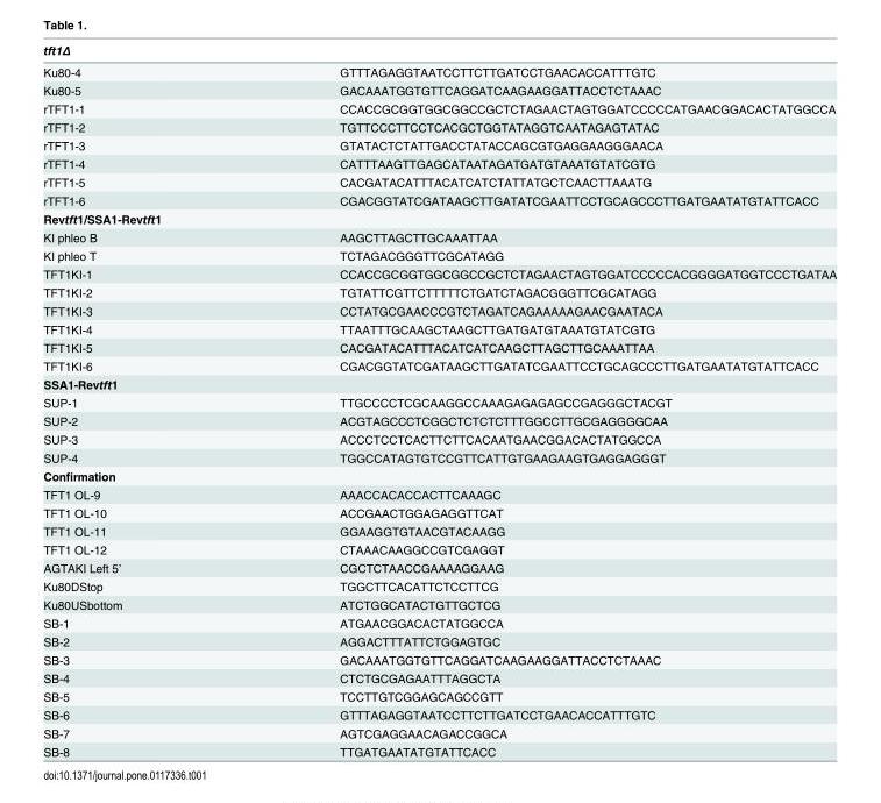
<table><thead><tr><td>tft1Δ</td><td></td></tr></thead><tbody><tr><td>Ku80-4</td><td>GTTTAGAGGTAATCCTTCTTGATCCTGAACACCATTTGTC</td></tr><tr><td>Ku80-5</td><td>GACAAATGGTGTTCAGGATCAAGAAGGATTACCTCTAAAC</td></tr><tr><td>rTFT1-1</td><td>CCACCGCGGTGGCGGCCGCTCTAGAACTAGTGGATCCCCCATGAACGGACACTATGGCCA</td></tr><tr><td>rTFT1-2</td><td>TGTTCCCTTCCTCACGCTGGTATAGGTCAATAGAGTATAC</td></tr><tr><td>rTFT1-3</td><td>GTATACTCTATTGACCTATACCAGCGTGAGGAAGGGAACA</td></tr><tr><td>rTFT1-4</td><td>CATTTAAGTTGAGCATAATAGATGATGTAAATGTATCGTG</td></tr><tr><td>rTFT1-5</td><td>CACGATACATTTACATCATCTATTATGCTCAACTTAAATG</td></tr><tr><td>rTFT1-6</td><td>CGACGGTATCGATAAGCTTGATATCGAATTCCTGCAGCCCTTGATGAATATGTATTCACC</td></tr><tr><td colspan="2">Revtft1/SSA1-Revtft1</td></tr><tr><td>KI phleo B</td><td>AAGCTTAGCTTGCAAATTAA</td></tr><tr><td>KI phleo T</td><td>TCTAGACGGGTTCGCATAGG</td></tr><tr><td>TFT1KI-1</td><td>CCACCGCGGTGGCGGCCGCTCTAGAACTAGTGGATCCCCCACGGGGATGGTCCCTGATAA</td></tr><tr><td>TFT1KI-2</td><td>TGTATTCGTTCTTTTTCTGATCTAGACGGGTTCGCATAGG</td></tr><tr><td>TFT1KI-3</td><td>CCTATGCGAACCCGTCTAGATCAGAAAAAGAACGAATACA</td></tr><tr><td>TFT1KI-4</td><td>TTAATTTGCAAGCTAAGCTTGATGATGTAAATGTATCGTG</td></tr><tr><td>TFT1KI-5</td><td>CACGATACATTTACATCATCAAGCTTAGCTTGCAAATTAA</td></tr><tr><td>TFT1KI-6</td><td>CGACGGTATCGATAAGCTTGATATCGAATTCCTGCAGCCCTTGATGAATATGTATTCACC</td></tr><tr><td colspan="2">SSA1-Revtft1</td></tr><tr><td>SUP-1</td><td>TTGCCCCTCGCAAGGCCAAAGAGAGAGCCGAGGGCTACGT</td></tr><tr><td>SUP-2</td><td>ACGTAGCCCTCGGCTCTCTCTTTGGCCTTGCGAGGGGCAA</td></tr><tr><td>SUP-3</td><td>ACCCTCCTCACTTCTTCACAATGAACGGACACTATGGCCA</td></tr><tr><td>SUP-4</td><td>TGGCCATAGTGTCCGTTCATTGTGAAGAAGTGAGGAGGGT</td></tr><tr><td colspan="2">Confirmation</td></tr><tr><td>TFT1 OL-9</td><td>AAACCACACCACTTCAAAGC</td></tr><tr><td>TFT1 OL-10</td><td>ACCGAACTGGAGAGGTTCAT</td></tr><tr><td>TFT1 OL-11</td><td>GGAAGGTGTAACGTACAAGG</td></tr><tr><td>TFT1 OL-12</td><td>CTAAACAAGGCCGTCGAGGT</td></tr><tr><td>AGTAKI Left 5’</td><td>CGCTCTAACCGAAAAGGAAG</td></tr><tr><td>Ku80DStop</td><td>TGGCTTCACATTCTCCTTCG</td></tr><tr><td>Ku80USbottom</td><td>ATCTGGCATACTGTTGCTCG</td></tr><tr><td>SB-1</td><td>ATGAACGGACACTATGGCCA</td></tr><tr><td>SB-2</td><td>AGGACTTTATTCTGGAGTGC</td></tr><tr><td>SB-3</td><td>GACAAATGGTGTTCAGGATCAAGAAGGATTACCTCTAAAC</td></tr><tr><td>SB-4</td><td>CTCTGCGAGAATTTAGGCTA</td></tr><tr><td>SB-5</td><td>TCCTTGTCGGAGCAGCCGTT</td></tr><tr><td>SB-6</td><td>GTTTAGAGGTAATCCTTCTTGATCCTGAACACCATTTGTC</td></tr><tr><td>SB-7</td><td>AGTCGAGGAACAGACCGGCA</td></tr><tr><td>SB-8</td><td>TTGATGAATATGTATTCACC</td></tr></tbody></table>